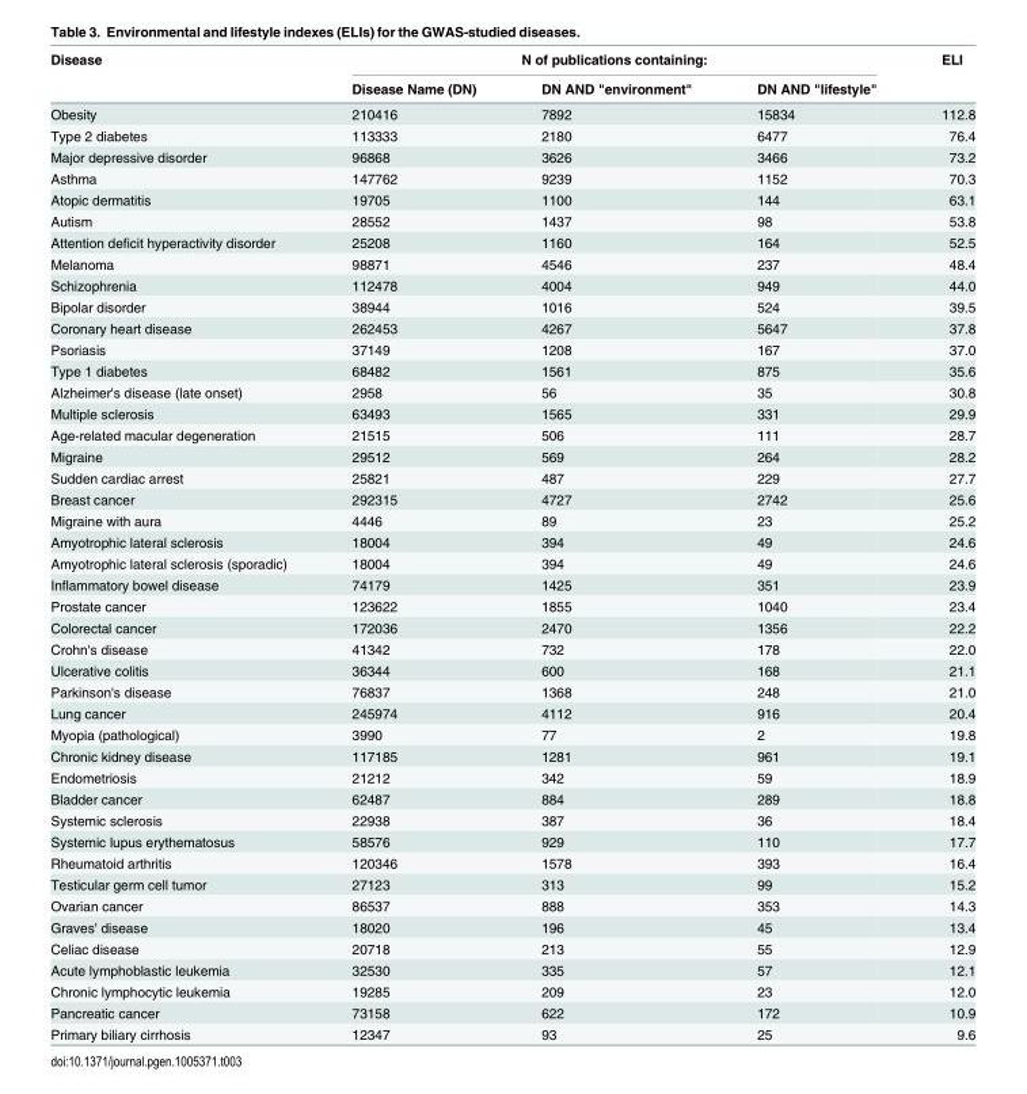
<table><thead><tr><td rowspan="2">Disease</td><td colspan="3">N of publications containing:</td><td rowspan="2">ELI</td></tr><tr><td>Disease Name (DN)</td><td>DN AND &quot;environment&quot;</td><td>DN AND &quot;lifestyle&quot;</td></tr></thead><tbody><tr><td>Obesity</td><td>210416</td><td>7892</td><td>15834</td><td>112.8</td></tr><tr><td>Type 2 diabetes</td><td>113333</td><td>2180</td><td>6477</td><td>76.4</td></tr><tr><td>Major depressive disorder</td><td>96868</td><td>3626</td><td>3466</td><td>73.2</td></tr><tr><td>Asthma</td><td>147762</td><td>9239</td><td>1152</td><td>70.3</td></tr><tr><td>Atopic dermatitis</td><td>19705</td><td>1100</td><td>144</td><td>63.1</td></tr><tr><td>Autism</td><td>28552</td><td>1437</td><td>98</td><td>53.8</td></tr><tr><td>Attention deficit hyperactivity disorder</td><td>25208</td><td>1160</td><td>164</td><td>52.5</td></tr><tr><td>Melanoma</td><td>98871</td><td>4546</td><td>237</td><td>48.4</td></tr><tr><td>Schizophrenia</td><td>112478</td><td>4004</td><td>949</td><td>44.0</td></tr><tr><td>Bipolar disorder</td><td>38944</td><td>1016</td><td>524</td><td>39.5</td></tr><tr><td>Coronary heart disease</td><td>262453</td><td>4267</td><td>5647</td><td>37.8</td></tr><tr><td>Psoriasis</td><td>37149</td><td>1208</td><td>167</td><td>37.0</td></tr><tr><td>Type 1 diabetes</td><td>68482</td><td>1561</td><td>875</td><td>35.6</td></tr><tr><td>Alzheimer&#x27;s disease (late onset)</td><td>2958</td><td>56</td><td>35</td><td>30.8</td></tr><tr><td>Multiple sclerosis</td><td>63493</td><td>1565</td><td>331</td><td>29.9</td></tr><tr><td>Age-related macular degeneration</td><td>21515</td><td>506</td><td>111</td><td>28.7</td></tr><tr><td>Migraine</td><td>29512</td><td>569</td><td>264</td><td>28.2</td></tr><tr><td>Sudden cardiac arrest</td><td>25821</td><td>487</td><td>229</td><td>27.7</td></tr><tr><td>Breast cancer</td><td>292315</td><td>4727</td><td>2742</td><td>25.6</td></tr><tr><td>Migraine with aura</td><td>4446</td><td>89</td><td>23</td><td>25.2</td></tr><tr><td>Amyotrophic lateral sclerosis</td><td>18004</td><td>394</td><td>49</td><td>24.6</td></tr><tr><td>Amyotrophic lateral sclerosis (sporadic)</td><td>18004</td><td>394</td><td>49</td><td>24.6</td></tr><tr><td>Inflammatory bowel disease</td><td>74179</td><td>1425</td><td>351</td><td>23.9</td></tr><tr><td>Prostate cancer</td><td>123622</td><td>1855</td><td>1040</td><td>23.4</td></tr><tr><td>Colorectal cancer</td><td>172036</td><td>2470</td><td>1356</td><td>22.2</td></tr><tr><td>Crohn&#x27;s disease</td><td>41342</td><td>732</td><td>178</td><td>22.0</td></tr><tr><td>Ulcerative colitis</td><td>36344</td><td>600</td><td>168</td><td>21.1</td></tr><tr><td>Parkinson&#x27;s disease</td><td>76837</td><td>1368</td><td>248</td><td>21.0</td></tr><tr><td>Lung cancer</td><td>245974</td><td>4112</td><td>916</td><td>20.4</td></tr><tr><td>Myopia (pathological)</td><td>3990</td><td>77</td><td>2</td><td>19.8</td></tr><tr><td>Chronic kidney disease</td><td>117185</td><td>1281</td><td>961</td><td>19.1</td></tr><tr><td>Endometriosis</td><td>21212</td><td>342</td><td>59</td><td>18.9</td></tr><tr><td>Bladder cancer</td><td>62487</td><td>884</td><td>289</td><td>18.8</td></tr><tr><td>Systemic sclerosis</td><td>22938</td><td>387</td><td>36</td><td>18.4</td></tr><tr><td>Systemic lupus erythematosus</td><td>58576</td><td>929</td><td>110</td><td>17.7</td></tr><tr><td>Rheumatoid arthritis</td><td>120346</td><td>1578</td><td>393</td><td>16.4</td></tr><tr><td>Testicular germ cell tumor</td><td>27123</td><td>313</td><td>99</td><td>15.2</td></tr><tr><td>Ovarian cancer</td><td>86537</td><td>888</td><td>353</td><td>14.3</td></tr><tr><td>Graves&#x27; disease</td><td>18020</td><td>196</td><td>45</td><td>13.4</td></tr><tr><td>Celiac disease</td><td>20718</td><td>213</td><td>55</td><td>12.9</td></tr><tr><td>Acute lymphoblastic leukemia</td><td>32530</td><td>335</td><td>57</td><td>12.1</td></tr><tr><td>Chronic lymphocytic leukemia</td><td>19285</td><td>209</td><td>23</td><td>12.0</td></tr><tr><td>Pancreatic cancer</td><td>73158</td><td>622</td><td>172</td><td>10.9</td></tr><tr><td>Primary biliary cirrhosis</td><td>12347</td><td>93</td><td>25</td><td>9.6</td></tr></tbody></table>